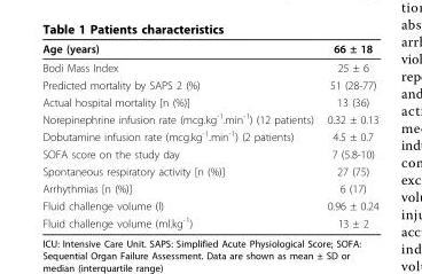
<table><thead><tr><td>Age (years)</td><td>66 ± 18</td></tr></thead><tbody><tr><td>Bodi Mass Index</td><td>25 ± 6</td></tr><tr><td>Predicted mortality by SAPS 2 (%)</td><td>51 (28-77)</td></tr><tr><td>Actual hospital mortality [n (%)]</td><td>13 (36)</td></tr><tr><td>Norepinephrine infusion rate (mcg.kg<sup>-1</sup>.min<sup>-1</sup>) (12 patients)</td><td>0.32 ± 0.13</td></tr><tr><td>Dobutamine infusion rate (mcg.kg<sup>-1</sup>.min<sup>-1</sup>) (2 patients)</td><td>4.5 ± 0.7</td></tr><tr><td>SOFA score on the study day</td><td>7 (5.8-10)</td></tr><tr><td>Spontaneous respiratory activity [n (%)]</td><td>27 (75)</td></tr><tr><td>Arrhythmias [n (%)]</td><td>6 (17)</td></tr><tr><td>Fluid challenge volume (l)</td><td>0.96 ± 0.24</td></tr><tr><td>Fluid challenge volume (ml.kg<sup>-1</sup>)</td><td>13 ± 2</td></tr></tbody></table>